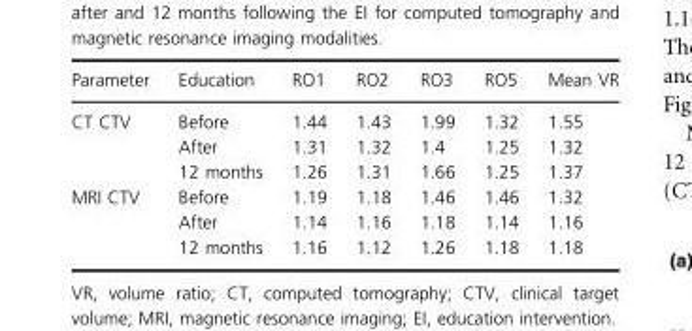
<table><thead><tr><td>Parameter</td><td>Education</td><td>RO1</td><td>RO2</td><td>RO3</td><td>RO5</td><td>Mean VR</td></tr></thead><tbody><tr><td rowspan="3">CT CTV</td><td>Before</td><td>1.44</td><td>1.43</td><td>1.99</td><td>1.32</td><td>1.55</td></tr><tr><td>After</td><td>1.31</td><td>1.32</td><td>1.4</td><td>1.25</td><td>1.32</td></tr><tr><td>12 months</td><td>1.26</td><td>1.31</td><td>1.66</td><td>1.25</td><td>1.37</td></tr><tr><td rowspan="3">MRI CTV</td><td>Before</td><td>1.19</td><td>1.18</td><td>1.46</td><td>1.46</td><td>1.32</td></tr><tr><td>After</td><td>1.14</td><td>1.16</td><td>1.18</td><td>1.14</td><td>1.16</td></tr><tr><td>12 months</td><td>1.16</td><td>1.12</td><td>1.26</td><td>1.18</td><td>1.18</td></tr></tbody></table>